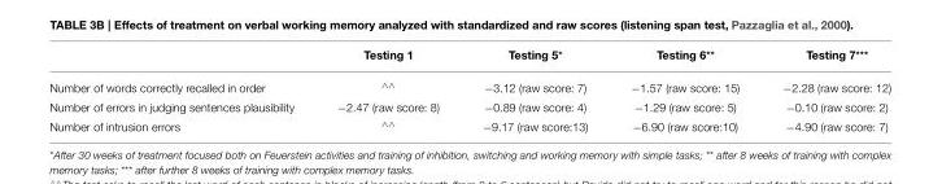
<table><thead><tr><td></td><td>Testing 1</td><td>Testing 5*</td><td>Testing 6**</td><td>Testing 7***</td></tr></thead><tbody><tr><td>Number of words correctly recalled in order</td><td><sup>∧∧</sup></td><td>−3.12 (raw score: 7)</td><td>−1.57 (raw score: 15)</td><td>−2.28 (raw score: 12)</td></tr><tr><td>Number of errors in judging sentences plausibility</td><td>−2.47 (raw score: 8)</td><td>−0.89 (raw score: 4)</td><td>−1.29 (raw score: 5)</td><td>−0.10 (raw score: 2)</td></tr><tr><td>Number of intrusion errors</td><td><sup>∧∧</sup></td><td>−9.17 (raw score:13)</td><td>−6.90 (raw score:10)</td><td>−4.90 (raw score: 7)</td></tr></tbody></table>